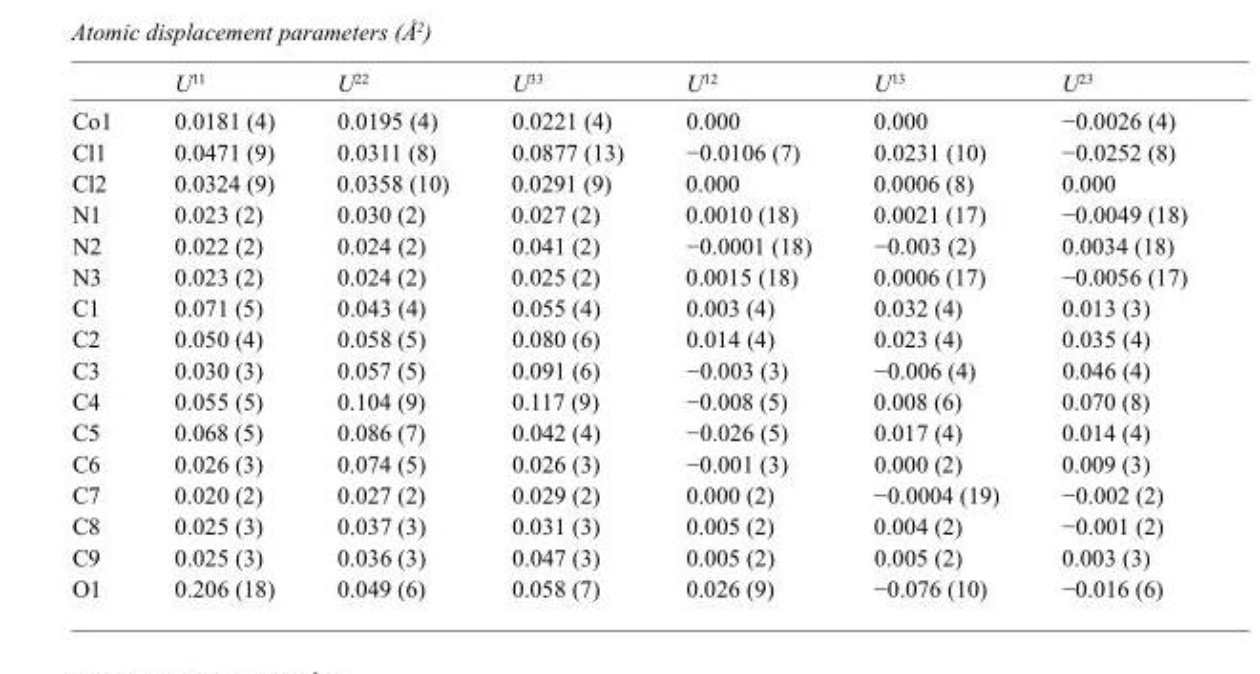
<table><thead><tr><td></td><td>U<sup>11</sup></td><td>U<sup>22</sup></td><td>U<sup>33</sup></td><td>U<sup>12</sup></td><td>U<sup>13</sup></td><td>U<sup>23</sup></td></tr></thead><tbody><tr><td>Co1</td><td>0.0181 (4)</td><td>0.0195 (4)</td><td>0.0221 (4)</td><td>0.000</td><td>0.000</td><td>−0.0026 (4)</td></tr><tr><td>Cl1</td><td>0.0471 (9)</td><td>0.0311 (8)</td><td>0.0877 (13)</td><td>−0.0106 (7)</td><td>0.0231 (10)</td><td>−0.0252 (8)</td></tr><tr><td>Cl2</td><td>0.0324 (9)</td><td>0.0358 (10)</td><td>0.0291 (9)</td><td>0.000</td><td>0.0006 (8)</td><td>0.000</td></tr><tr><td>N1</td><td>0.023 (2)</td><td>0.030 (2)</td><td>0.027 (2)</td><td>0.0010 (18)</td><td>0.0021 (17)</td><td>−0.0049 (18)</td></tr><tr><td>N2</td><td>0.022 (2)</td><td>0.024 (2)</td><td>0.041 (2)</td><td>−0.0001 (18)</td><td>−0.003 (2)</td><td>0.0034 (18)</td></tr><tr><td>N3</td><td>0.023 (2)</td><td>0.024 (2)</td><td>0.025 (2)</td><td>0.0015 (18)</td><td>0.0006 (17)</td><td>−0.0056 (17)</td></tr><tr><td>C1</td><td>0.071 (5)</td><td>0.043 (4)</td><td>0.055 (4)</td><td>0.003 (4)</td><td>0.032 (4)</td><td>0.013 (3)</td></tr><tr><td>C2</td><td>0.050 (4)</td><td>0.058 (5)</td><td>0.080 (6)</td><td>0.014 (4)</td><td>0.023 (4)</td><td>0.035 (4)</td></tr><tr><td>C3</td><td>0.030 (3)</td><td>0.057 (5)</td><td>0.091 (6)</td><td>−0.003 (3)</td><td>−0.006 (4)</td><td>0.046 (4)</td></tr><tr><td>C4</td><td>0.055 (5)</td><td>0.104 (9)</td><td>0.117 (9)</td><td>−0.008 (5)</td><td>0.008 (6)</td><td>0.070 (8)</td></tr><tr><td>C5</td><td>0.068 (5)</td><td>0.086 (7)</td><td>0.042 (4)</td><td>−0.026 (5)</td><td>0.017 (4)</td><td>0.014 (4)</td></tr><tr><td>C6</td><td>0.026 (3)</td><td>0.074 (5)</td><td>0.026 (3)</td><td>−0.001 (3)</td><td>0.000 (2)</td><td>0.009 (3)</td></tr><tr><td>C7</td><td>0.020 (2)</td><td>0.027 (2)</td><td>0.029 (2)</td><td>0.000 (2)</td><td>−0.0004 (19)</td><td>−0.002 (2)</td></tr><tr><td>C8</td><td>0.025 (3)</td><td>0.037 (3)</td><td>0.031 (3)</td><td>0.005 (2)</td><td>0.004 (2)</td><td>−0.001 (2)</td></tr><tr><td>C9</td><td>0.025 (3)</td><td>0.036 (3)</td><td>0.047 (3)</td><td>0.005 (2)</td><td>0.005 (2)</td><td>0.003 (3)</td></tr><tr><td>O1</td><td>0.206 (18)</td><td>0.049 (6)</td><td>0.058 (7)</td><td>0.026 (9)</td><td>−0.076 (10)</td><td>−0.016 (6)</td></tr></tbody></table>